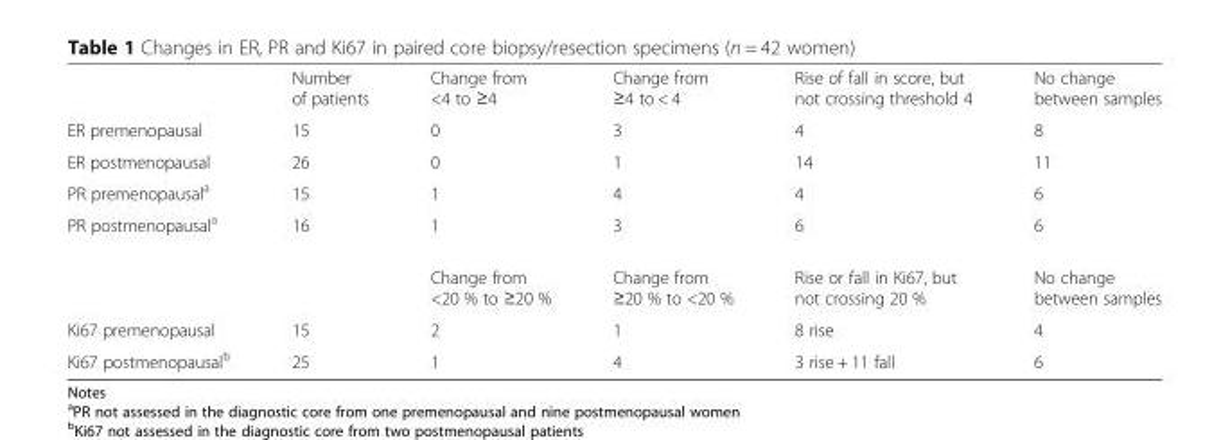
<table><thead><tr><td></td><td>Number of patients</td><td>Change from &lt;4 to ≥4</td><td>Change from ≥4 to &lt; 4</td><td>Rise of fall in score, but not crossing threshold 4</td><td>No change between samples</td></tr></thead><tbody><tr><td>ER premenopausal</td><td>15</td><td>0</td><td>3</td><td>4</td><td>8</td></tr><tr><td>ER postmenopausal</td><td>26</td><td>0</td><td>1</td><td>14</td><td>11</td></tr><tr><td>PR premenopausal<sup>a</sup></td><td>15</td><td>1</td><td>4</td><td>4</td><td>6</td></tr><tr><td rowspan="2">PR postmenopausal<sup>a</sup></td><td>16</td><td>1</td><td>3</td><td>6</td><td>6</td></tr><tr><td></td><td>Change from &lt;20 % to ≥20 %</td><td>Change from ≥20 % to &lt;20 %</td><td>Rise or fall in Ki67, but not crossing 20 %</td><td>No change between samples</td></tr><tr><td>Ki67 premenopausal</td><td>15</td><td>2</td><td>1</td><td>8 rise</td><td>4</td></tr><tr><td>Ki67 postmenopausal<sup>b</sup></td><td>25</td><td>1</td><td>4</td><td>3 rise + 11 fall</td><td>6</td></tr></tbody></table>